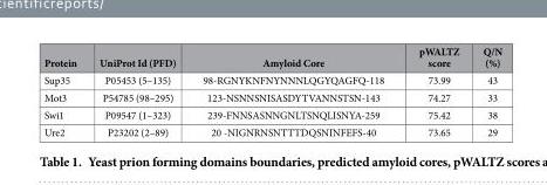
<table><thead><tr><td>Protein</td><td>UniProt Id (PFD)</td><td>Amyloid Core</td><td>pWALTZ score</td><td>Q/N (%)</td></tr></thead><tbody><tr><td>Sup35</td><td>P05453 (5–135)</td><td>98-RGNYKNFNYNNNLQGYQAGFQ-118</td><td>73.99</td><td>43</td></tr><tr><td>Mot3</td><td>P54785 (98–295)</td><td>123-NSNNSNISASDYTVANNSTSN-143</td><td>74.27</td><td>33</td></tr><tr><td>Swi1</td><td>P09547 (1–323)</td><td>239-FNNSASNNGNLTSNQLISNYA-259</td><td>75.42</td><td>38</td></tr><tr><td>Ure2</td><td>P23202 (2–89)</td><td>20 -NIGNRNSNTTTDQSNINFEFS-40</td><td>73.65</td><td>29</td></tr></tbody></table>